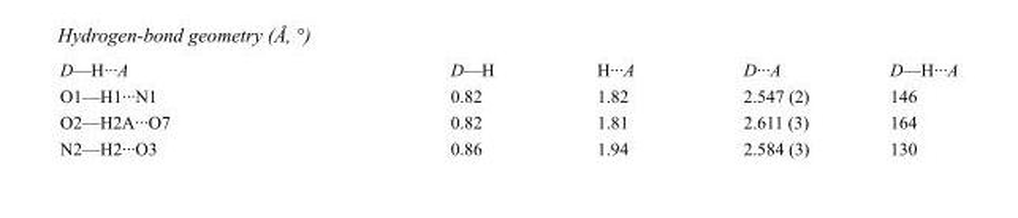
<table><tbody><tr><td>D—H···A</td><td>D—H</td><td>H···A</td><td>D···A</td><td>D—H···A</td></tr><tr><td>O1—H1···N1</td><td>0.82</td><td>1.82</td><td>2.547 (2)</td><td>146</td></tr><tr><td>O2—H2A···O7</td><td>0.82</td><td>1.81</td><td>2.611 (3)</td><td>164</td></tr><tr><td>N2—H2···O3</td><td>0.86</td><td>1.94</td><td>2.584 (3)</td><td>130</td></tr></tbody></table>